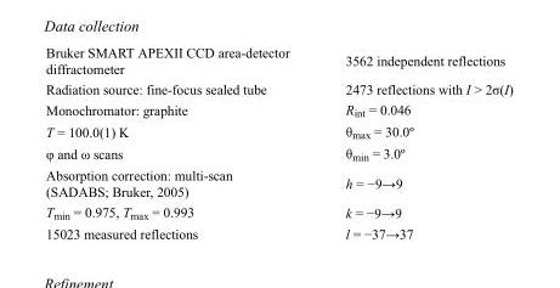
<table><tbody><tr><td>Bruker SMART APEXII CCD area-detector diffractometer</td><td>3562 independent reflections</td></tr><tr><td>Radiation source: fine-focus sealed tube</td><td>2473 reflections with I &gt; 2σ(I)</td></tr><tr><td>Monochromator: graphite</td><td>R<sub>int</sub> = 0.046</td></tr><tr><td>T = 100.0(1) K</td><td>θ<sub>max</sub> = 30.0º</td></tr><tr><td>φ and ω scans</td><td>θ<sub>min</sub> = 3.0º</td></tr><tr><td>Absorption correction: multi-scan (SADABS; Bruker, 2005)</td><td>h = −9→9</td></tr><tr><td>T<sub>min</sub> = 0.975, T<sub>max</sub> = 0.993</td><td>k = −9→9</td></tr><tr><td>15023 measured reflections</td><td>l = −37→37</td></tr></tbody></table>